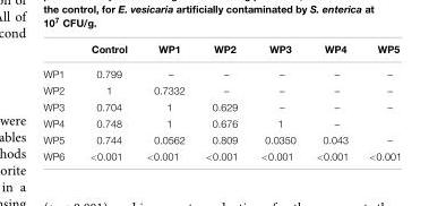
<table><thead><tr><td></td><td>Control</td><td>WP1</td><td>WP2</td><td>WP3</td><td>WP4</td><td>WP5</td></tr></thead><tbody><tr><td>WP1</td><td>0.799</td><td>–</td><td>–</td><td>–</td><td>–</td><td>–</td></tr><tr><td>WP2</td><td>1</td><td>0.7332</td><td>–</td><td>–</td><td>–</td><td>–</td></tr><tr><td>WP3</td><td>0.704</td><td>1</td><td>0.629</td><td>–</td><td>–</td><td>–</td></tr><tr><td>WP4</td><td>0.748</td><td>1</td><td>0.676</td><td>1</td><td>–</td><td></td></tr><tr><td>WP5</td><td>0.744</td><td>0.0562</td><td>0.809</td><td>0.0350</td><td>0.043</td><td>–</td></tr><tr><td>WP6</td><td>&lt;0.001</td><td>&lt;0.001</td><td>&lt;0.001</td><td>&lt;0.001</td><td>&lt;0.001</td><td>&lt;0.001</td></tr></tbody></table>